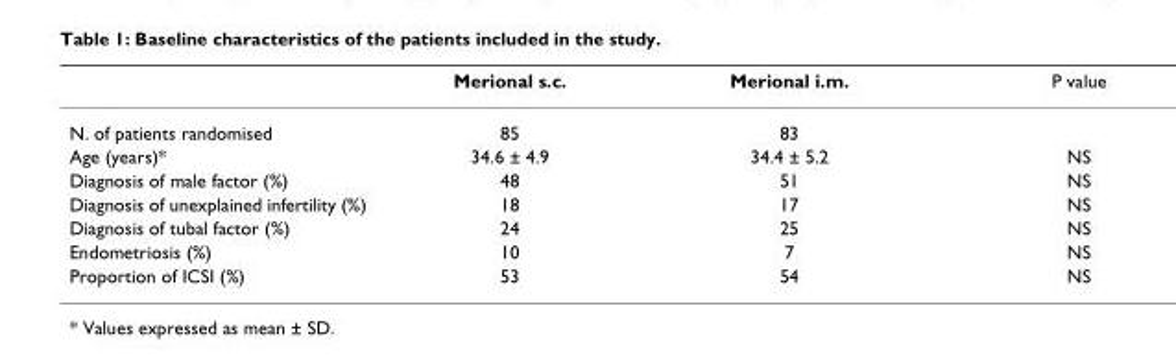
<table><thead><tr><td></td><td>Merional s.c.</td><td>Merional i.m.</td><td>P value</td></tr></thead><tbody><tr><td>N. of patients randomised</td><td>85</td><td>83</td><td></td></tr><tr><td>Age (years)*</td><td>34.6 ± 4.9</td><td>34.4 ± 5.2</td><td>NS</td></tr><tr><td>Diagnosis of male factor (%)</td><td>48</td><td>51</td><td>NS</td></tr><tr><td>Diagnosis of unexplained infertility (%)</td><td>18</td><td>17</td><td>NS</td></tr><tr><td>Diagnosis of tubal factor (%)</td><td>24</td><td>25</td><td>NS</td></tr><tr><td>Endometriosis (%)</td><td>10</td><td>7</td><td>NS</td></tr><tr><td>Proportion of ICSI (%)</td><td>53</td><td>54</td><td>NS</td></tr></tbody></table>